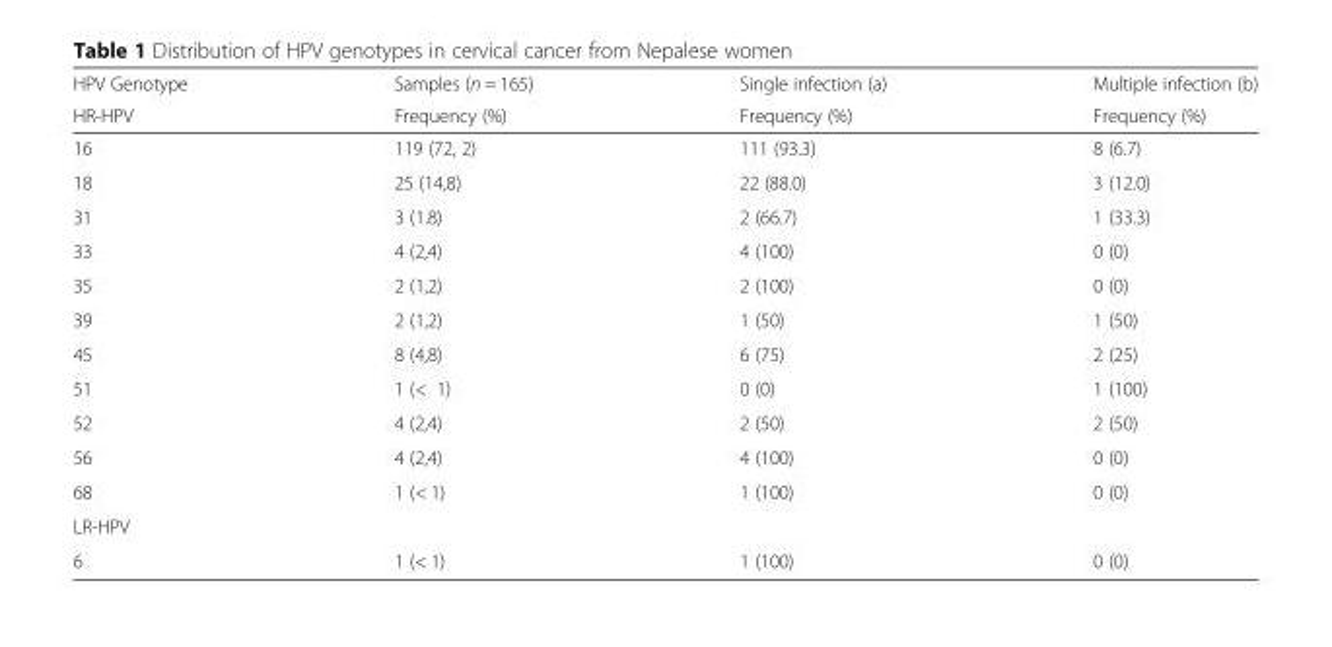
<table><thead><tr><td rowspan="2">HPV Genotype HR-HPV</td><td rowspan="2">Samples (n = 165) Frequency (%)</td><td rowspan="2">Single infection (a) Frequency (%)</td><td rowspan="2">Multiple infection (b) Frequency (%)</td></tr><tr></tr></thead><tbody><tr><td>16</td><td>119 (72, 2)</td><td>111 (93.3)</td><td>8 (6.7)</td></tr><tr><td>18</td><td>25 (14,8)</td><td>22 (88.0)</td><td>3 (12.0)</td></tr><tr><td>31</td><td>3 (1.8)</td><td>2 (66.7)</td><td>1 (33.3)</td></tr><tr><td>33</td><td>4 (2,4)</td><td>4 (100)</td><td>0 (0)</td></tr><tr><td>35</td><td>2 (1,2)</td><td>2 (100)</td><td>0 (0)</td></tr><tr><td>39</td><td>2 (1,2)</td><td>1 (50)</td><td>1 (50)</td></tr><tr><td>45</td><td>8 (4,8)</td><td>6 (75)</td><td>2 (25)</td></tr><tr><td>51</td><td>1 (&lt; 1)</td><td>0 (0)</td><td>1 (100)</td></tr><tr><td>52</td><td>4 (2,4)</td><td>2 (50)</td><td>2 (50)</td></tr><tr><td>56</td><td>4 (2,4)</td><td>4 (100)</td><td>0 (0)</td></tr><tr><td>68</td><td>1 (&lt; 1)</td><td>1 (100)</td><td>0 (0)</td></tr><tr><td colspan="4">LR-HPV</td></tr><tr><td>6</td><td>1 (&lt; 1)</td><td>1 (100)</td><td>0 (0)</td></tr></tbody></table>